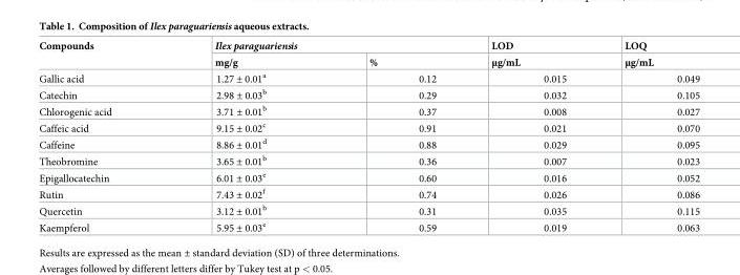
<table><thead><tr><td rowspan="2">Compounds</td><td colspan="2">Ilex paraguariensis</td><td rowspan="2">LOD μg/mL</td><td rowspan="2">LOQ μg/mL</td></tr><tr><td>mg/g</td><td>%</td></tr></thead><tbody><tr><td>Gallic acid</td><td>1.27 ± 0.01<sup>a</sup></td><td>0.12</td><td>0.015</td><td>0.049</td></tr><tr><td>Catechin</td><td>2.98 ± 0.03<sup>b</sup></td><td>0.29</td><td>0.032</td><td>0.105</td></tr><tr><td>Chlorogenic acid</td><td>3.71 ± 0.01<sup>b</sup></td><td>0.37</td><td>0.008</td><td>0.027</td></tr><tr><td>Caffeic acid</td><td>9.15 ± 0.02<sup>c</sup></td><td>0.91</td><td>0.021</td><td>0.070</td></tr><tr><td>Caffeine</td><td>8.86 ± 0.01<sup>d</sup></td><td>0.88</td><td>0.029</td><td>0.095</td></tr><tr><td>Theobromine</td><td>3.65 ± 0.01<sup>b</sup></td><td>0.36</td><td>0.007</td><td>0.023</td></tr><tr><td>Epigallocatechin</td><td>6.01 ± 0.03<sup>e</sup></td><td>0.60</td><td>0.016</td><td>0.052</td></tr><tr><td>Rutin</td><td>7.43 ± 0.02<sup>f</sup></td><td>0.74</td><td>0.026</td><td>0.086</td></tr><tr><td>Quercetin</td><td>3.12 ± 0.01<sup>b</sup></td><td>0.31</td><td>0.035</td><td>0.115</td></tr><tr><td>Kaempferol</td><td>5.95 ± 0.03<sup>e</sup></td><td>0.59</td><td>0.019</td><td>0.063</td></tr></tbody></table>